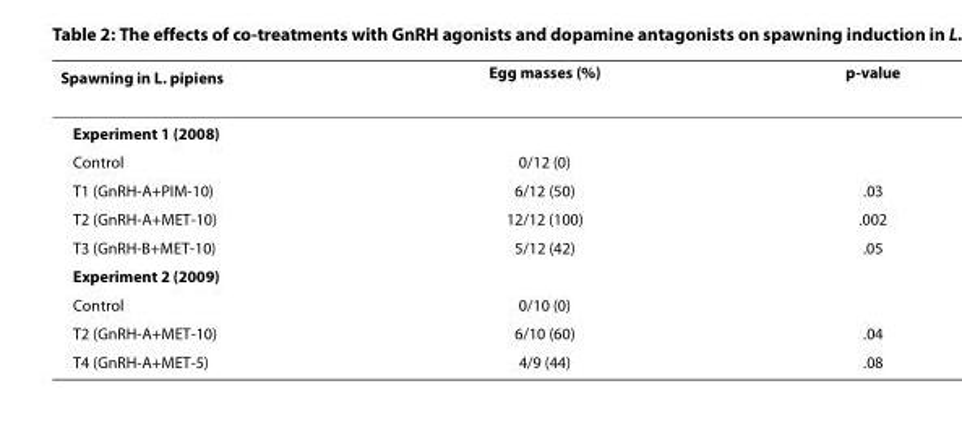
<table><thead><tr><td>Spawning in L. pipiens</td><td>Egg masses (%)</td><td>p-value</td></tr></thead><tbody><tr><td colspan="3">Experiment 1 (2008)</td></tr><tr><td>Control</td><td>0/12 (0)</td><td></td></tr><tr><td>T1 (GnRH-A+PIM-10)</td><td>6/12 (50)</td><td>.03</td></tr><tr><td>T2 (GnRH-A+MET-10)</td><td>12/12 (100)</td><td>.002</td></tr><tr><td>T3 (GnRH-B+MET-10)</td><td>5/12 (42)</td><td>.05</td></tr><tr><td colspan="3">Experiment 2 (2009)</td></tr><tr><td>Control</td><td>0/10 (0)</td><td></td></tr><tr><td>T2 (GnRH-A+MET-10)</td><td>6/10 (60)</td><td>.04</td></tr><tr><td>T4 (GnRH-A+MET-5)</td><td>4/9 (44)</td><td>.08</td></tr></tbody></table>